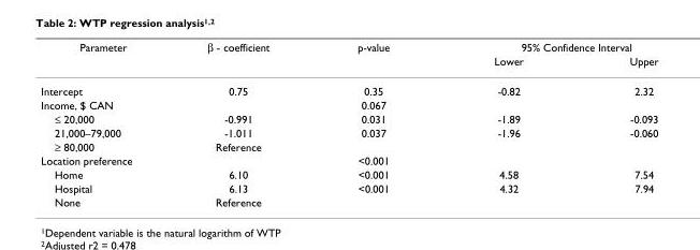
<table><thead><tr><td rowspan="2">Parameter</td><td rowspan="2">β - coefficient</td><td rowspan="2">p-value</td><td colspan="2">95% Confidence Interval</td></tr><tr><td>Lower</td><td>Upper</td></tr></thead><tbody><tr><td>Intercept</td><td>0.75</td><td>0.35</td><td>-0.82</td><td>2.32</td></tr><tr><td>Income, $ CAN</td><td></td><td>0.067</td><td></td><td></td></tr><tr><td>≤ 20,000</td><td>-0.991</td><td>0.031</td><td>-1.89</td><td>-0.093</td></tr><tr><td>21,000–79,000</td><td>-1.011</td><td>0.037</td><td>-1.96</td><td>-0.060</td></tr><tr><td>≥ 80,000</td><td>Reference</td><td></td><td></td><td></td></tr><tr><td>Location preference</td><td></td><td>&lt;0.001</td><td></td><td></td></tr><tr><td>Home</td><td>6.10</td><td>&lt;0.001</td><td>4.58</td><td>7.54</td></tr><tr><td>Hospital</td><td>6.13</td><td>&lt;0.001</td><td>4.32</td><td>7.94</td></tr><tr><td>None</td><td>Reference</td><td></td><td></td><td></td></tr></tbody></table>